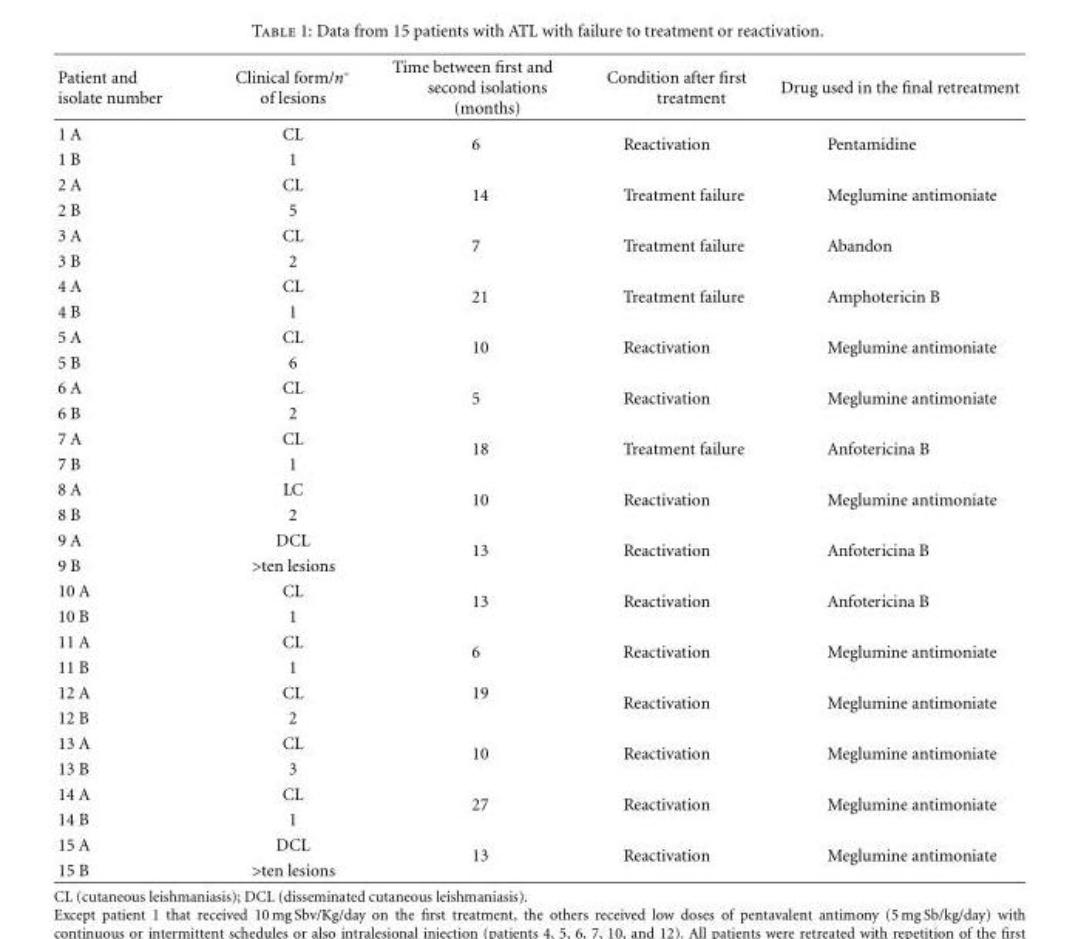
<table><thead><tr><td>Patient and isolate number</td><td>Clinical form/n◦ of lesions</td><td>Time between first and second isolations (months)</td><td>Condition after first treatment</td><td>Drug used in the final retreatment</td></tr></thead><tbody><tr><td>1 A</td><td>CL</td><td rowspan="2">6</td><td rowspan="2">Reactivation</td><td rowspan="2">Pentamidine</td></tr><tr><td>1 B</td><td>1</td></tr><tr><td>2 A</td><td>CL</td><td rowspan="2">14</td><td rowspan="2">Treatment failure</td><td rowspan="2">Meglumine antimoniate</td></tr><tr><td>2 B</td><td>5</td></tr><tr><td>3 A</td><td>CL</td><td rowspan="2">7</td><td rowspan="2">Treatment failure</td><td rowspan="2">Abandon</td></tr><tr><td>3 B</td><td>2</td></tr><tr><td>4 A</td><td>CL</td><td rowspan="2">21</td><td rowspan="2">Treatment failure</td><td rowspan="2">Amphotericin B</td></tr><tr><td>4 B</td><td>1</td></tr><tr><td>5 A</td><td>CL</td><td rowspan="2">10</td><td rowspan="2">Reactivation</td><td rowspan="2">Meglumine antimoniate</td></tr><tr><td>5 B</td><td>6</td></tr><tr><td>6 A</td><td>CL</td><td rowspan="2">5</td><td rowspan="2">Reactivation</td><td rowspan="2">Meglumine antimoniate</td></tr><tr><td>6 B</td><td>2</td></tr><tr><td>7 A</td><td>CL</td><td rowspan="2">18</td><td rowspan="2">Treatment failure</td><td rowspan="2">Anfotericina B</td></tr><tr><td>7 B</td><td>1</td></tr><tr><td>8 A</td><td>LC</td><td rowspan="2">10</td><td rowspan="2">Reactivation</td><td rowspan="2">Meglumine antimoniate</td></tr><tr><td>8 B</td><td>2</td></tr><tr><td>9 A</td><td>DCL</td><td rowspan="2">13</td><td rowspan="2">Reactivation</td><td rowspan="2">Anfotericina B</td></tr><tr><td>9 B</td><td>&gt;ten lesions</td></tr><tr><td>10 A</td><td>CL</td><td rowspan="2">13</td><td rowspan="2">Reactivation</td><td rowspan="2">Anfotericina B</td></tr><tr><td>10 B</td><td>1</td></tr><tr><td>11 A</td><td>CL</td><td rowspan="2">6</td><td rowspan="2">Reactivation</td><td rowspan="2">Meglumine antimoniate</td></tr><tr><td>11 B</td><td>1</td></tr><tr><td>12 A</td><td>CL</td><td rowspan="2">19</td><td rowspan="2">Reactivation</td><td rowspan="2">Meglumine antimoniate</td></tr><tr><td>12 B</td><td>2</td></tr><tr><td>13 A</td><td>CL</td><td rowspan="2">10</td><td rowspan="2">Reactivation</td><td rowspan="2">Meglumine antimoniate</td></tr><tr><td>13 B</td><td>3</td></tr><tr><td>14 A</td><td>CL</td><td rowspan="2">27</td><td rowspan="2">Reactivation</td><td rowspan="2">Meglumine antimoniate</td></tr><tr><td>14 B</td><td>1</td></tr><tr><td>15 A</td><td>DCL</td><td rowspan="2">13</td><td rowspan="2">Reactivation</td><td rowspan="2">Meglumine antimoniate</td></tr><tr><td>15 B</td><td>&gt;ten lesions</td></tr></tbody></table>